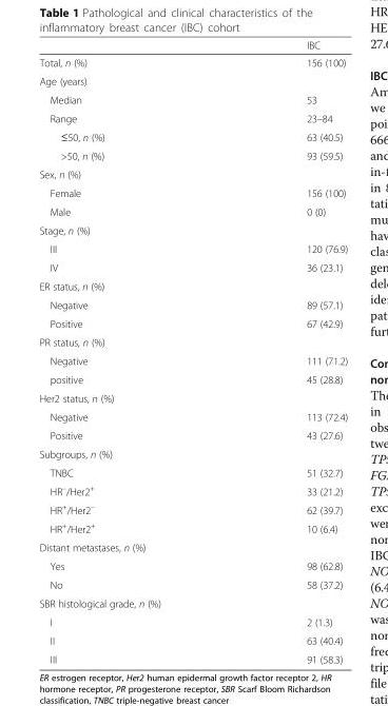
<table><thead><tr><td></td><td>IBC</td></tr></thead><tbody><tr><td>Total, n (%)</td><td>156 (100)</td></tr><tr><td colspan="2">Age (years)</td></tr><tr><td>Median</td><td>53</td></tr><tr><td>Range</td><td>23–84</td></tr><tr><td>≤50, n (%)</td><td>63 (40.5)</td></tr><tr><td>&gt;50, n (%)</td><td>93 (59.5)</td></tr><tr><td colspan="2">Sex, n (%)</td></tr><tr><td>Female</td><td>156 (100)</td></tr><tr><td>Male</td><td>0 (0)</td></tr><tr><td colspan="2">Stage, n (%)</td></tr><tr><td>III</td><td>120 (76.9)</td></tr><tr><td>IV</td><td>36 (23.1)</td></tr><tr><td colspan="2">ER status, n (%)</td></tr><tr><td>Negative</td><td>89 (57.1)</td></tr><tr><td>Positive</td><td>67 (42.9)</td></tr><tr><td colspan="2">PR status, n (%)</td></tr><tr><td>Negative</td><td>111 (71.2)</td></tr><tr><td>positive</td><td>45 (28.8)</td></tr><tr><td colspan="2">Her2 status, n (%)</td></tr><tr><td>Negative</td><td>113 (72.4)</td></tr><tr><td>Positive</td><td>43 (27.6)</td></tr><tr><td colspan="2">Subgroups, n (%)</td></tr><tr><td>TNBC</td><td>51 (32.7)</td></tr><tr><td>HR<sup>–</sup>/Her2<sup>+</sup></td><td>33 (21.2)</td></tr><tr><td>HR<sup>+</sup>/Her2<sup>–</sup></td><td>62 (39.7)</td></tr><tr><td>HR<sup>+</sup>/Her2<sup>+</sup></td><td>10 (6.4)</td></tr><tr><td colspan="2">Distant metastases, n (%)</td></tr><tr><td>Yes</td><td>98 (62.8)</td></tr><tr><td>No</td><td>58 (37.2)</td></tr><tr><td colspan="2">SBR histological grade, n (%)</td></tr><tr><td>I</td><td>2 (1.3)</td></tr><tr><td>II</td><td>63 (40.4)</td></tr><tr><td>III</td><td>91 (58.3)</td></tr></tbody></table>